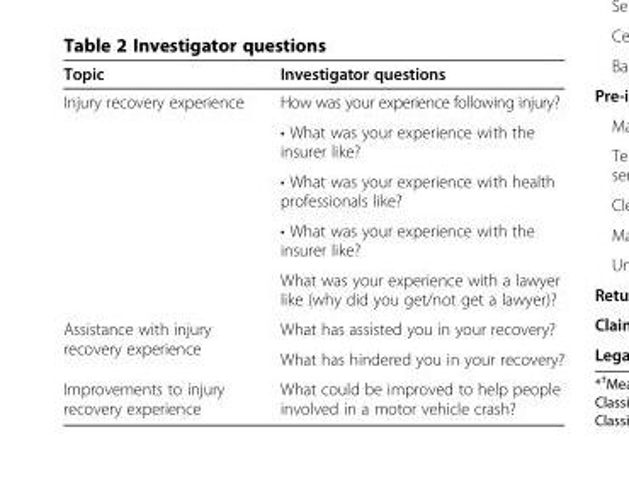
<table><thead><tr><td>Topic</td><td>Investigator questions</td></tr></thead><tbody><tr><td rowspan="5">Injury recovery experience</td><td>How was your experience following injury?</td></tr><tr><td>• What was your experience with the insurer like?</td></tr><tr><td>• What was your experience with health professionals like?</td></tr><tr><td>• What was your experience with the insurer like?</td></tr><tr><td>What was your experience with a lawyer like (why did you get/not get a lawyer)?</td></tr><tr><td rowspan="2">Assistance with injury recovery experience</td><td>What has assisted you in your recovery?</td></tr><tr><td>What has hindered you in your recovery?</td></tr><tr><td>Improvements to injury recovery experience</td><td>What could be improved to help people involved in a motor vehicle crash?</td></tr></tbody></table>